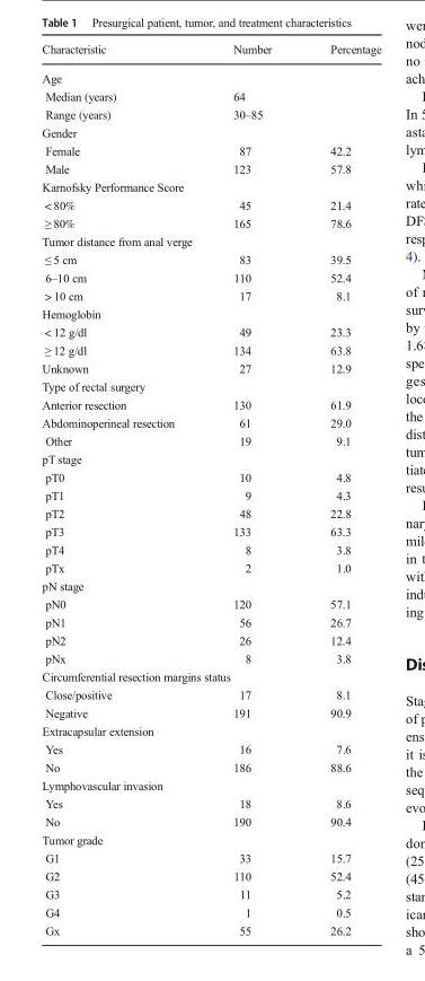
<table><thead><tr><td>Characteristic</td><td>Number</td><td>Percentage</td></tr></thead><tbody><tr><td colspan="3">Age</td></tr><tr><td>Median (years)</td><td colspan="2">64</td></tr><tr><td>Range (years)</td><td colspan="2">30–85</td></tr><tr><td colspan="3">Gender</td></tr><tr><td>Female</td><td>87</td><td>42.2</td></tr><tr><td>Male</td><td>123</td><td>57.8</td></tr><tr><td colspan="3">Karnofsky Performance Score</td></tr><tr><td>&lt; 80%</td><td>45</td><td>21.4</td></tr><tr><td>≥ 80%</td><td>165</td><td>78.6</td></tr><tr><td colspan="3">Tumor distance from anal verge</td></tr><tr><td>≤ 5 cm</td><td>83</td><td>39.5</td></tr><tr><td>6–10 cm</td><td>110</td><td>52.4</td></tr><tr><td>&gt; 10 cm</td><td>17</td><td>8.1</td></tr><tr><td colspan="3">Hemoglobin</td></tr><tr><td>&lt; 12 g/dl</td><td>49</td><td>23.3</td></tr><tr><td>≥ 12 g/dl</td><td>134</td><td>63.8</td></tr><tr><td>Unknown</td><td>27</td><td>12.9</td></tr><tr><td colspan="3">Type of rectal surgery</td></tr><tr><td>Anterior resection</td><td>130</td><td>61.9</td></tr><tr><td>Abdominoperineal resection</td><td>61</td><td>29.0</td></tr><tr><td>Other</td><td>19</td><td>9.1</td></tr><tr><td colspan="3">pT stage</td></tr><tr><td>pT0</td><td>10</td><td>4.8</td></tr><tr><td>pT1</td><td>9</td><td>4.3</td></tr><tr><td>pT2</td><td>48</td><td>22.8</td></tr><tr><td>pT3</td><td>133</td><td>63.3</td></tr><tr><td>pT4</td><td>8</td><td>3.8</td></tr><tr><td>pTx</td><td>2</td><td>1.0</td></tr><tr><td colspan="3">pN stage</td></tr><tr><td>pN0</td><td>120</td><td>57.1</td></tr><tr><td>pN1</td><td>56</td><td>26.7</td></tr><tr><td>pN2</td><td>26</td><td>12.4</td></tr><tr><td>pNx</td><td>8</td><td>3.8</td></tr><tr><td colspan="3">Circumferential resection margins status</td></tr><tr><td>Close/positive</td><td>17</td><td>8.1</td></tr><tr><td>Negative</td><td>191</td><td>90.9</td></tr><tr><td colspan="3">Extracapsular extension</td></tr><tr><td>Yes</td><td>16</td><td>7.6</td></tr><tr><td>No</td><td>186</td><td>88.6</td></tr><tr><td colspan="3">Lymphovascular invasion</td></tr><tr><td>Yes</td><td>18</td><td>8.6</td></tr><tr><td>No</td><td>190</td><td>90.4</td></tr><tr><td colspan="3">Tumor grade</td></tr><tr><td>G1</td><td>33</td><td>15.7</td></tr><tr><td>G2</td><td>110</td><td>52.4</td></tr><tr><td>G3</td><td>11</td><td>5.2</td></tr><tr><td>G4</td><td>1</td><td>0.5</td></tr><tr><td>Gx</td><td>55</td><td>26.2</td></tr></tbody></table>